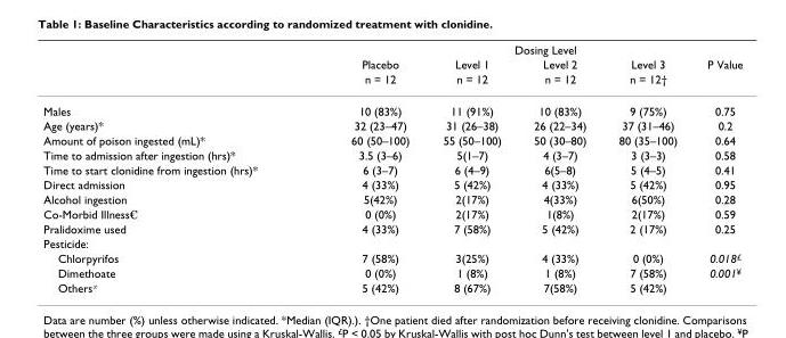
<table><thead><tr><td rowspan="3"></td><td colspan="5">Dosing Level</td></tr><tr><td rowspan="2">Placebo n = 12</td><td rowspan="2">Level 1 n = 12</td><td rowspan="2">Level 2 n = 12</td><td rowspan="2">Level 3 n = 12†</td><td rowspan="2">P Value</td></tr><tr></tr></thead><tbody><tr><td>Males</td><td>10 (83%)</td><td>11 (91%)</td><td>10 (83%)</td><td>9 (75%)</td><td>0.75</td></tr><tr><td>Age (years)*</td><td>32 (23–47)</td><td>31 (26–38)</td><td>26 (22–34)</td><td>37 (31–46)</td><td>0.2</td></tr><tr><td>Amount of poison ingested (mL)*</td><td>60 (50–100)</td><td>55 (50–100)</td><td>50 (30–80)</td><td>80 (35–100)</td><td>0.64</td></tr><tr><td>Time to admission after ingestion (hrs)*</td><td>3.5 (3–6)</td><td>5(1–7)</td><td>4 (3–7)</td><td>3 (3–3)</td><td>0.58</td></tr><tr><td>Time to start clonidine from ingestion (hrs)*</td><td>6 (3–7)</td><td>6 (4–9)</td><td>6(5–8)</td><td>5 (4–5)</td><td>0.41</td></tr><tr><td>Direct admission</td><td>4 (33%)</td><td>5 (42%)</td><td>4 (33%)</td><td>5 (42%)</td><td>0.95</td></tr><tr><td>Alcohol ingestion</td><td>5(42%)</td><td>2(17%)</td><td>4(33%)</td><td>6(50%)</td><td>0.28</td></tr><tr><td>Co-Morbid Illness<sup>€</sup></td><td>0 (0%)</td><td>2(17%)</td><td>1(8%)</td><td>2(17%)</td><td>0.59</td></tr><tr><td>Pralidoxime used</td><td>4 (33%)</td><td>7 (58%)</td><td>5 (42%)</td><td>2 (17%)</td><td>0.25</td></tr><tr><td colspan="6">Pesticide:</td></tr><tr><td>Chlorpyrifos</td><td>7 (58%)</td><td>3(25%)</td><td>4 (33%)</td><td>0 (0%)</td><td>0.018<sup>£</sup></td></tr><tr><td>Dimethoate</td><td>0 (0%)</td><td>1 (8%)</td><td>1 (8%)</td><td>7 (58%)</td><td>0.001<sup>¥</sup></td></tr><tr><td>Others<sup>≠</sup></td><td>5 (42%)</td><td>8 (67%)</td><td>7(58%)</td><td>5 (42%)</td><td></td></tr></tbody></table>